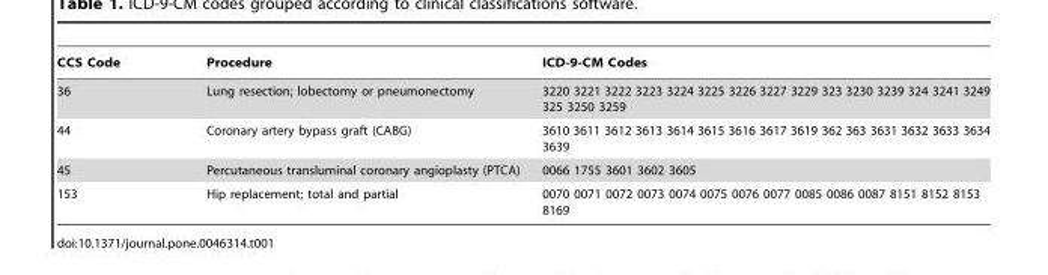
<table><thead><tr><td>CCS Code</td><td>Procedure</td><td>ICD-9-CM Codes</td></tr></thead><tbody><tr><td>36</td><td>Lung resection; lobectomy or pneumonectomy</td><td>3220 3221 3222 3223 3224 3225 3226 3227 3229 323 3230 3239 324 3241 3249 325 3250 3259</td></tr><tr><td>44</td><td>Coronary artery bypass graft (CABG)</td><td>3610 3611 3612 3613 3614 3615 3616 3617 3619 362 363 3631 3632 3633 3634 3639</td></tr><tr><td>45</td><td>Percutaneous transluminal coronary angioplasty (PTCA)</td><td>0066 1755 3601 3602 3605</td></tr><tr><td>153</td><td>Hip replacement; total and partial</td><td>0070 0071 0072 0073 0074 0075 0076 0077 0085 0086 0087 8151 8152 8153 8169</td></tr></tbody></table>